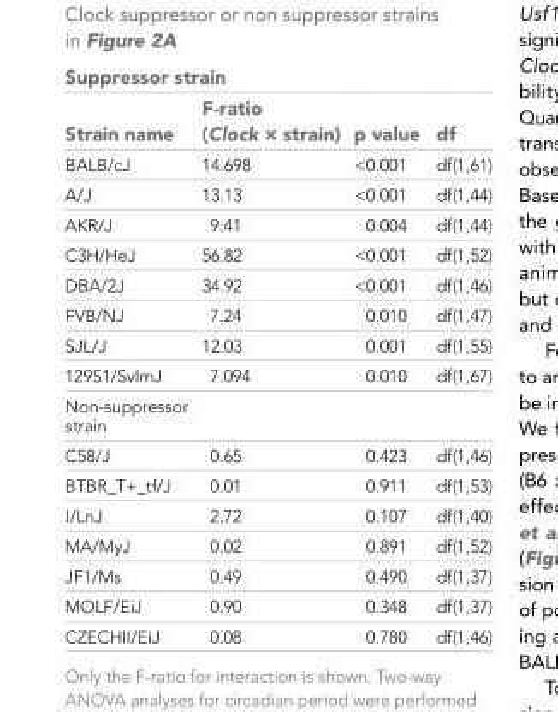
<table><thead><tr><td colspan="4">Suppressor strain</td></tr><tr><td>Strain name</td><td>F-ratio (Clock × strain)</td><td>p value</td><td>df</td></tr></thead><tbody><tr><td>BALB/cJ</td><td>14.698</td><td>&lt;0.001</td><td>df(1,61)</td></tr><tr><td>A/J</td><td>13.13</td><td>&lt;0.001</td><td>df(1,44)</td></tr><tr><td>AKR/J</td><td>9.41</td><td>0.004</td><td>df(1,44)</td></tr><tr><td>C3H/HeJ</td><td>56.82</td><td>&lt;0.001</td><td>df(1,52)</td></tr><tr><td>DBA/2J</td><td>34.92</td><td>&lt;0.001</td><td>df(1,46)</td></tr><tr><td>FVB/NJ</td><td>7.24</td><td>0.010</td><td>df(1,47)</td></tr><tr><td>SJL/J</td><td>12.03</td><td>0.001</td><td>df(1,55)</td></tr><tr><td>129S1/SvImJ</td><td>7.094</td><td>0.010</td><td>df(1,67)</td></tr><tr><td colspan="4">Non-suppressor strain</td></tr><tr><td>C58/J</td><td>0.65</td><td>0.423</td><td>df(1,46)</td></tr><tr><td>BTBR_T+_tf/J</td><td>0.01</td><td>0.911</td><td>df(1,53)</td></tr><tr><td>I/LnJ</td><td>2.72</td><td>0.107</td><td>df(1,40)</td></tr><tr><td>MA/MyJ</td><td>0.02</td><td>0.891</td><td>df(1,52)</td></tr><tr><td>JF1/Ms</td><td>0.49</td><td>0.490</td><td>df(1,37)</td></tr><tr><td>MOLF/EiJ</td><td>0.90</td><td>0.348</td><td>df(1,37)</td></tr><tr><td>CZECHII/EiJ</td><td>0.08</td><td>0.780</td><td>df(1,46)</td></tr></tbody></table>